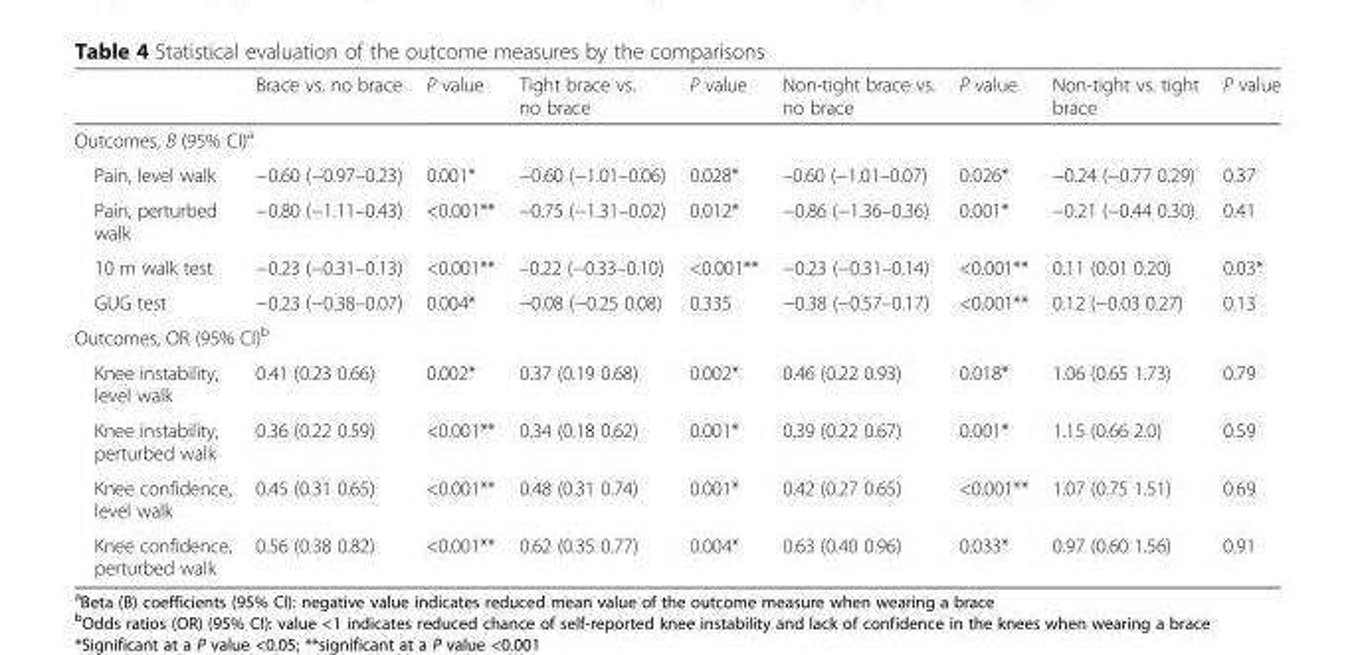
<table><thead><tr><td></td><td>Brace vs. no brace</td><td>P value</td><td>Tight brace vs. no brace</td><td>P value</td><td>Non-tight brace vs. no brace</td><td>P value</td><td>Non-tight vs. tight brace</td><td>P value</td></tr></thead><tbody><tr><td colspan="9">Outcomes, B (95% CI)<sup>a</sup></td></tr><tr><td>Pain, level walk</td><td>−0.60 (−0.97–0.23)</td><td>0.001*</td><td>−0.60 (−1.01–0.06)</td><td>0.028*</td><td>–0.60 (−1.01–0.07)</td><td>0.026*</td><td>−0.24 (−0.77 0.29)</td><td>0.37</td></tr><tr><td>Pain, perturbed walk</td><td>−0.80 (−1.11–0.43)</td><td>&lt;0.001**</td><td>−0.75 (−1.31–0.02)</td><td>0.012*</td><td>−0.86 (−1.36–0.36)</td><td>0.001*</td><td>−0.21 (−0.44 0.30)</td><td>0.41</td></tr><tr><td>10 m walk test</td><td>−0.23 (−0.31–0.13)</td><td>&lt;0.001**</td><td>–0.22 (−0.33–0.10)</td><td>&lt;0.001**</td><td>−0.23 (−0.31–0.14)</td><td>&lt;0.001**</td><td>0.11 (0.01 0.20)</td><td>0.03*</td></tr><tr><td>GUG test</td><td>−0.23 (−0.38–0.07)</td><td>0.004*</td><td>−0.08 (−0.25 0.08)</td><td>0.335</td><td>−0.38 (−0.57–0.17)</td><td>&lt;0.001**</td><td>0.12 (−0.03 0.27)</td><td>0.13</td></tr><tr><td colspan="9">Outcomes, OR (95% CI)<sup>b</sup></td></tr><tr><td>Knee instability, level walk</td><td>0.41 (0.23 0.66)</td><td>0.002*</td><td>0.37 (0.19 0.68)</td><td>0.002*</td><td>0.46 (0.22 0.93)</td><td>0.018*</td><td>1.06 (0.65 1.73)</td><td>0.79</td></tr><tr><td>Knee instability, perturbed walk</td><td>0.36 (0.22 0.59)</td><td>&lt;0.001**</td><td>0.34 (0.18 0.62)</td><td>0.001*</td><td>0.39 (0.22 0.67)</td><td>0.001*</td><td>1.15 (0.66 2.0)</td><td>0.59</td></tr><tr><td>Knee confidence, level walk</td><td>0.45 (0.31 0.65)</td><td>&lt;0.001**</td><td>0.48 (0.31 0.74)</td><td>0.001*</td><td>0.42 (0.27 0.65)</td><td>&lt;0.001**</td><td>1.07 (0.75 1.51)</td><td>0.69</td></tr><tr><td>Knee confidence, perturbed walk</td><td>0.56 (0.38 0.82)</td><td>&lt;0.001**</td><td>0.62 (0.35 0.77)</td><td>0.004*</td><td>0.63 (0.40 0.96)</td><td>0.033*</td><td>0.97 (0.60 1.56)</td><td>0.91</td></tr></tbody></table>